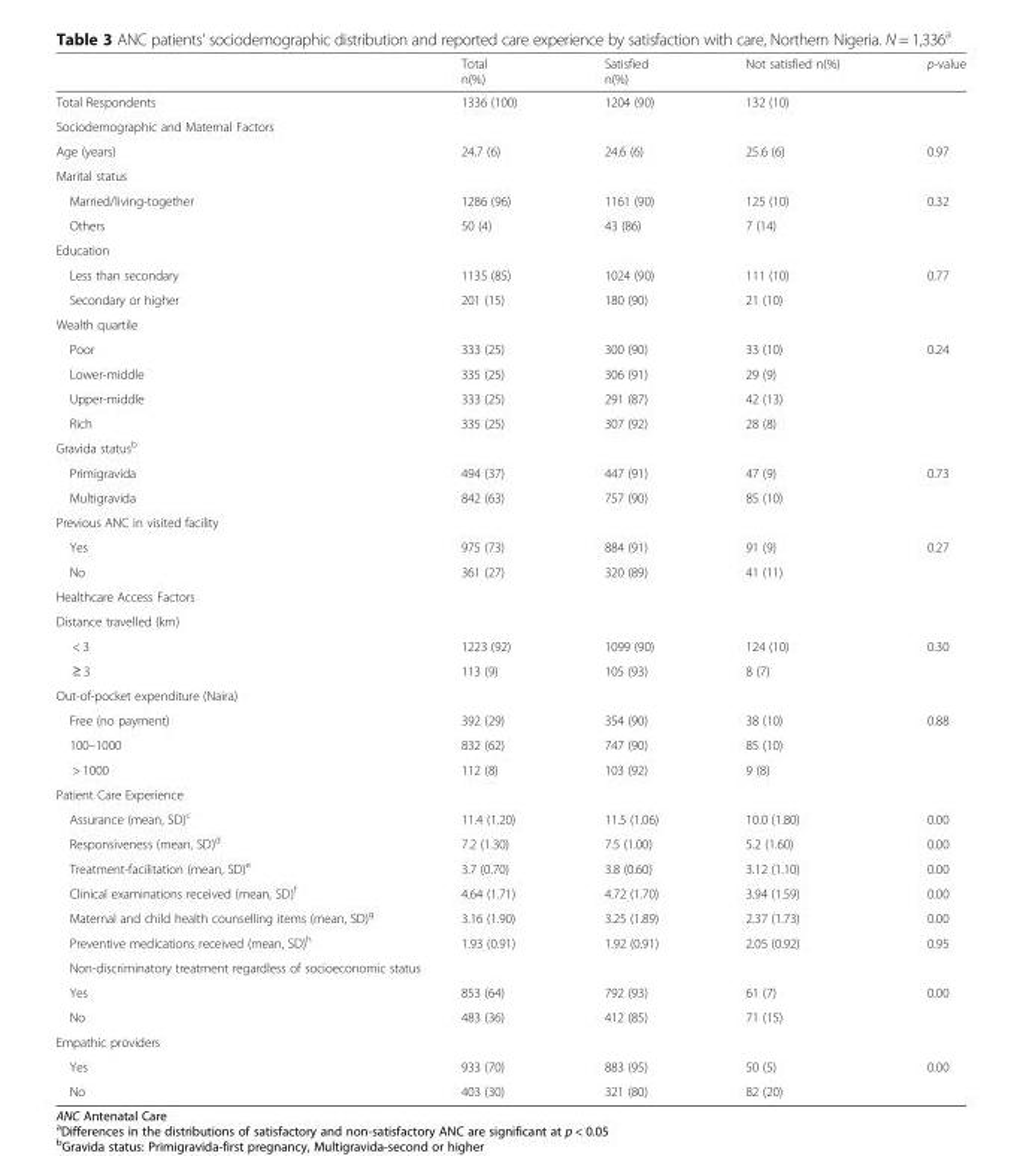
<table><thead><tr><td></td><td>Total n(%)</td><td>Satisfied n(%)</td><td>Not satisfied n(%)</td><td>p-value</td></tr></thead><tbody><tr><td>Total Respondents</td><td>1336 (100)</td><td>1204 (90)</td><td>132 (10)</td><td></td></tr><tr><td colspan="5">Sociodemographic and Maternal Factors</td></tr><tr><td>Age (years)</td><td>24.7 (6)</td><td>24.6 (6)</td><td>25.6 (6)</td><td>0.97</td></tr><tr><td colspan="5">Marital status</td></tr><tr><td>Married/living-together</td><td>1286 (96)</td><td>1161 (90)</td><td>125 (10)</td><td>0.32</td></tr><tr><td>Others</td><td>50 (4)</td><td>43 (86)</td><td>7 (14)</td><td></td></tr><tr><td colspan="5">Education</td></tr><tr><td>Less than secondary</td><td>1135 (85)</td><td>1024 (90)</td><td>111 (10)</td><td>0.77</td></tr><tr><td>Secondary or higher</td><td>201 (15)</td><td>180 (90)</td><td>21 (10)</td><td></td></tr><tr><td colspan="5">Wealth quartile</td></tr><tr><td>Poor</td><td>333 (25)</td><td>300 (90)</td><td>33 (10)</td><td>0.24</td></tr><tr><td>Lower-middle</td><td>335 (25)</td><td>306 (91)</td><td>29 (9)</td><td></td></tr><tr><td>Upper-middle</td><td>333 (25)</td><td>291 (87)</td><td>42 (13)</td><td></td></tr><tr><td>Rich</td><td>335 (25)</td><td>307 (92)</td><td>28 (8)</td><td></td></tr><tr><td colspan="5">Gravida status<sup>b</sup></td></tr><tr><td>Primigravida</td><td>494 (37)</td><td>447 (91)</td><td>47 (9)</td><td>0.73</td></tr><tr><td>Multigravida</td><td>842 (63)</td><td>757 (90)</td><td>85 (10)</td><td></td></tr><tr><td colspan="5">Previous ANC in visited facility</td></tr><tr><td>Yes</td><td>975 (73)</td><td>884 (91)</td><td>91 (9)</td><td>0.27</td></tr><tr><td>No</td><td>361 (27)</td><td>320 (89)</td><td>41 (11)</td><td></td></tr><tr><td colspan="5">Healthcare Access Factors</td></tr><tr><td colspan="5">Distance travelled (km)</td></tr><tr><td>&lt; 3</td><td>1223 (92)</td><td>1099 (90)</td><td>124 (10)</td><td>0.30</td></tr><tr><td>≥ 3</td><td>113 (9)</td><td>105 (93)</td><td>8 (7)</td><td></td></tr><tr><td colspan="5">Out-of-pocket expenditure (Naira)</td></tr><tr><td>Free (no payment)</td><td>392 (29)</td><td>354 (90)</td><td>38 (10)</td><td>0.88</td></tr><tr><td>100–1000</td><td>832 (62)</td><td>747 (90)</td><td>85 (10)</td><td></td></tr><tr><td>&gt; 1000</td><td>112 (8)</td><td>103 (92)</td><td>9 (8)</td><td></td></tr><tr><td colspan="5">Patient Care Experience</td></tr><tr><td>Assurance (mean, SD)<sup>c</sup></td><td>11.4 (1.20)</td><td>11.5 (1.06)</td><td>10.0 (1.80)</td><td>0.00</td></tr><tr><td>Responsiveness (mean, SD)<sup>d</sup></td><td>7.2 (1.30)</td><td>7.5 (1.00)</td><td>5.2 (1.60)</td><td>0.00</td></tr><tr><td>Treatment-facilitation (mean, SD)<sup>e</sup></td><td>3.7 (0.70)</td><td>3.8 (0.60)</td><td>3.12 (1.10)</td><td>0.00</td></tr><tr><td>Clinical examinations received (mean, SD)<sup>f</sup></td><td>4.64 (1.71)</td><td>4.72 (1.70)</td><td>3.94 (1.59)</td><td>0.00</td></tr><tr><td>Maternal and child health counselling items (mean, SD)<sup>g</sup></td><td>3.16 (1.90)</td><td>3.25 (1.89)</td><td>2.37 (1.73)</td><td>0.00</td></tr><tr><td>Preventive medications received (mean, SD)<sup>h</sup></td><td>1.93 (0.91)</td><td>1.92 (0.91)</td><td>2.05 (0.92)</td><td>0.95</td></tr><tr><td colspan="5">Non-discriminatory treatment regardless of socioeconomic status</td></tr><tr><td>Yes</td><td>853 (64)</td><td>792 (93)</td><td>61 (7)</td><td>0.00</td></tr><tr><td>No</td><td>483 (36)</td><td>412 (85)</td><td>71 (15)</td><td></td></tr><tr><td colspan="5">Empathic providers</td></tr><tr><td>Yes</td><td>933 (70)</td><td>883 (95)</td><td>50 (5)</td><td>0.00</td></tr><tr><td>No</td><td>403 (30)</td><td>321 (80)</td><td>82 (20)</td><td></td></tr></tbody></table>